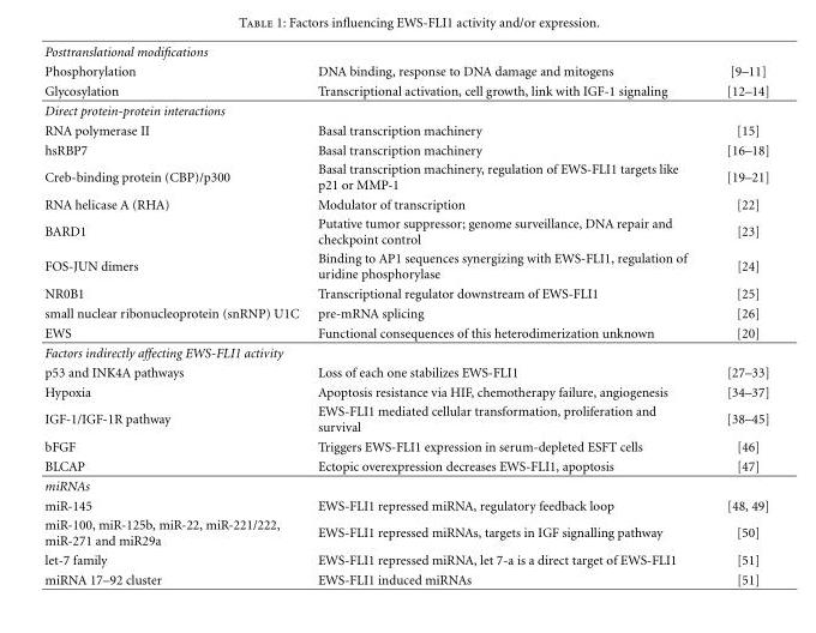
<table><tbody><tr><td colspan="3">Posttranslational modifications</td></tr><tr><td>Phosphorylation</td><td>DNA binding, response to DNA damage and mitogens</td><td>[9–11]</td></tr><tr><td>Glycosylation</td><td>Transcriptional activation, cell growth, link with IGF-1 signaling</td><td>[12–14]</td></tr><tr><td colspan="3">Direct protein-protein interactions</td></tr><tr><td>RNA polymerase II</td><td>Basal transcription machinery</td><td>[15]</td></tr><tr><td>hsRBP7</td><td>Basal transcription machinery</td><td>[16–18]</td></tr><tr><td>Creb-binding protein (CBP)/p300</td><td>Basal transcription machinery, regulation of EWS-FLI1 targets like p21 or MMP-1</td><td>[19–21]</td></tr><tr><td>RNA helicase A (RHA)</td><td>Modulator of transcription</td><td>[22]</td></tr><tr><td>BARD1</td><td>Putative tumor suppressor; genome surveillance, DNA repair and checkpoint control</td><td>[23]</td></tr><tr><td>FOS-JUN dimers</td><td>Binding to AP1 sequences synergizing with EWS-FLI1, regulation of uridine phosphorylase</td><td>[24]</td></tr><tr><td>NR0B1</td><td>Transcriptional regulator downstream of EWS-FLI1</td><td>[25]</td></tr><tr><td>small nuclear ribonucleoprotein (snRNP) U1C</td><td>pre-mRNA splicing</td><td>[26]</td></tr><tr><td>EWS</td><td>Functional consequences of this heterodimerization unknown</td><td>[20]</td></tr><tr><td colspan="3">Factors indirectly affecting EWS-FLI1 activity</td></tr><tr><td>p53 and INK4A pathways</td><td>Loss of each one stabilizes EWS-FLI1</td><td>[27–33]</td></tr><tr><td>Hypoxia</td><td>Apoptosis resistance via HIF, chemotherapy failure, angiogenesis</td><td>[34–37]</td></tr><tr><td>IGF-1/IGF-1R pathway</td><td>EWS-FLI1 mediated cellular transformation, proliferation and survival</td><td>[38–45]</td></tr><tr><td>bFGF</td><td>Triggers EWS-FLI1 expression in serum-depleted ESFT cells</td><td>[46]</td></tr><tr><td>BLCAP</td><td>Ectopic overexpression decreases EWS-FLI1, apoptosis</td><td>[47]</td></tr><tr><td colspan="3">miRNAs</td></tr><tr><td>miR-145</td><td>EWS-FLI1 repressed miRNA, regulatory feedback loop</td><td>[48, 49]</td></tr><tr><td>miR-100, miR-125b, miR-22, miR-221/222, miR-271 and miR29a</td><td>EWS-FLI1 repressed miRNAs, targets in IGF signalling pathway</td><td>[50]</td></tr><tr><td>let-7 family</td><td>EWS-FLI1 repressed miRNA, let 7-a is a direct target of EWS-FLI1</td><td>[51]</td></tr><tr><td>miRNA 17–92 cluster</td><td>EWS-FLI1 induced miRNAs</td><td>[51]</td></tr></tbody></table>